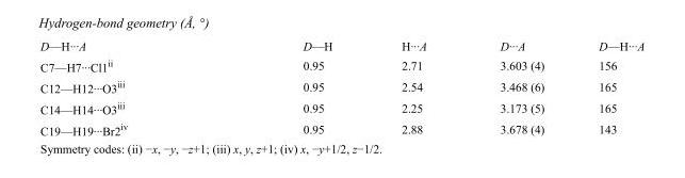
<table><tbody><tr><td>D—H···A</td><td>D—H</td><td>H···A</td><td>D···A</td><td>D—H···A</td></tr><tr><td>C7—H7···Cl1<sup>ii</sup></td><td>0.95</td><td>2.71</td><td>3.603 (4)</td><td>156</td></tr><tr><td>C12—H12···O3<sup>iii</sup></td><td>0.95</td><td>2.54</td><td>3.468 (6)</td><td>165</td></tr><tr><td>C14—H14···O3<sup>iii</sup></td><td>0.95</td><td>2.25</td><td>3.173 (5)</td><td>165</td></tr><tr><td>C19—H19···Br2<sup>iv</sup></td><td>0.95</td><td>2.88</td><td>3.678 (4)</td><td>143</td></tr></tbody></table>